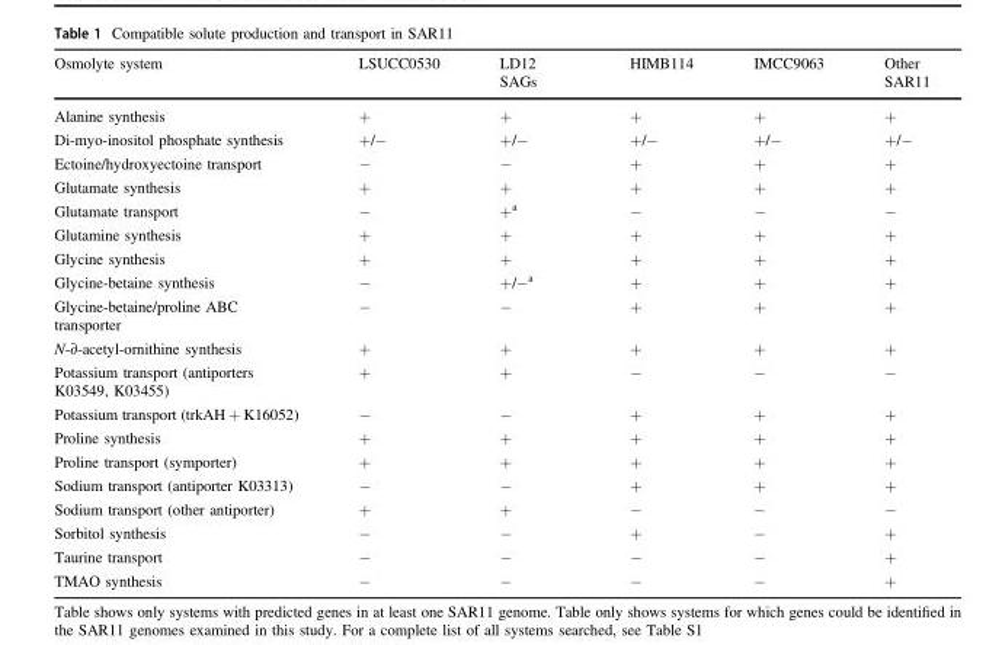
<table><thead><tr><td>Osmolyte system</td><td>LSUCC0530</td><td>LD12 SAGs</td><td>HIMB114</td><td>IMCC9063</td><td>Other SAR11</td></tr></thead><tbody><tr><td>Alanine synthesis</td><td>+</td><td>+</td><td>+</td><td>+</td><td>+</td></tr><tr><td>Di-myo-inositol phosphate synthesis</td><td>+/−</td><td>+/−</td><td>+/−</td><td>+/−</td><td>+/−</td></tr><tr><td>Ectoine/hydroxyectoine transport</td><td>−</td><td>−</td><td>+</td><td>+</td><td>+</td></tr><tr><td>Glutamate synthesis</td><td>+</td><td>+</td><td>+</td><td>+</td><td>+</td></tr><tr><td>Glutamate transport</td><td>−</td><td>+<sup>a</sup></td><td>−</td><td>−</td><td>−</td></tr><tr><td>Glutamine synthesis</td><td>+</td><td>+</td><td>+</td><td>+</td><td>+</td></tr><tr><td>Glycine synthesis</td><td>+</td><td>+</td><td>+</td><td>+</td><td>+</td></tr><tr><td>Glycine-betaine synthesis</td><td>−</td><td>+/−<sup>a</sup></td><td>+</td><td>+</td><td>+</td></tr><tr><td>Glycine-betaine/proline ABC transporter</td><td>−</td><td>−</td><td>+</td><td>+</td><td>+</td></tr><tr><td>N-∂-acetyl-ornithine synthesis</td><td>+</td><td>+</td><td>+</td><td>+</td><td>+</td></tr><tr><td>Potassium transport (antiporters K03549, K03455)</td><td>+</td><td>+</td><td>−</td><td>−</td><td>−</td></tr><tr><td>Potassium transport (trkAH + K16052)</td><td>−</td><td>−</td><td>+</td><td>+</td><td>+</td></tr><tr><td>Proline synthesis</td><td>+</td><td>+</td><td>+</td><td>+</td><td>+</td></tr><tr><td>Proline transport (symporter)</td><td>+</td><td>+</td><td>+</td><td>+</td><td>+</td></tr><tr><td>Sodium transport (antiporter K03313)</td><td>−</td><td>−</td><td>+</td><td>+</td><td>+</td></tr><tr><td>Sodium transport (other antiporter)</td><td>+</td><td>+</td><td>−</td><td>−</td><td>−</td></tr><tr><td>Sorbitol synthesis</td><td>−</td><td>−</td><td>+</td><td>−</td><td>+</td></tr><tr><td>Taurine transport</td><td>−</td><td>−</td><td>−</td><td>−</td><td>+</td></tr><tr><td>TMAO synthesis</td><td>−</td><td>−</td><td>−</td><td>−</td><td>+</td></tr></tbody></table>